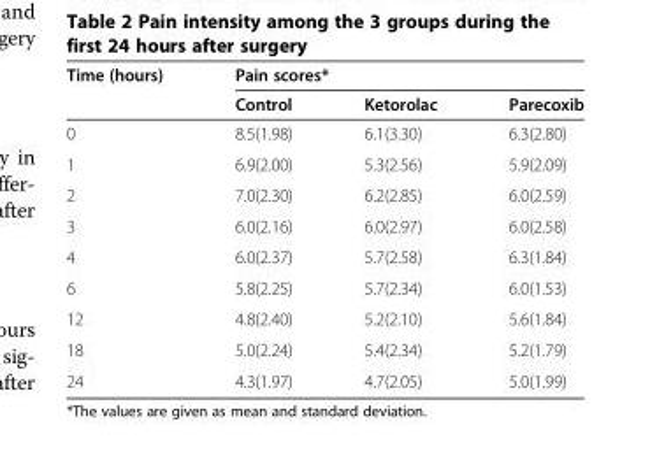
<table><thead><tr><td rowspan="2">Time (hours)</td><td colspan="3">Pain scores*</td></tr><tr><td>Control</td><td>Ketorolac</td><td>Parecoxib</td></tr></thead><tbody><tr><td>0</td><td>8.5(1.98)</td><td>6.1(3.30)</td><td>6.3(2.80)</td></tr><tr><td>1</td><td>6.9(2.00)</td><td>5.3(2.56)</td><td>5.9(2.09)</td></tr><tr><td>2</td><td>7.0(2.30)</td><td>6.2(2.85)</td><td>6.0(2.59)</td></tr><tr><td>3</td><td>6.0(2.16)</td><td>6.0(2.97)</td><td>6.0(2.58)</td></tr><tr><td>4</td><td>6.0(2.37)</td><td>5.7(2.58)</td><td>6.3(1.84)</td></tr><tr><td>6</td><td>5.8(2.25)</td><td>5.7(2.34)</td><td>6.0(1.53)</td></tr><tr><td>12</td><td>4.8(2.40)</td><td>5.2(2.10)</td><td>5.6(1.84)</td></tr><tr><td>18</td><td>5.0(2.24)</td><td>5.4(2.34)</td><td>5.2(1.79)</td></tr><tr><td>24</td><td>4.3(1.97)</td><td>4.7(2.05)</td><td>5.0(1.99)</td></tr></tbody></table>